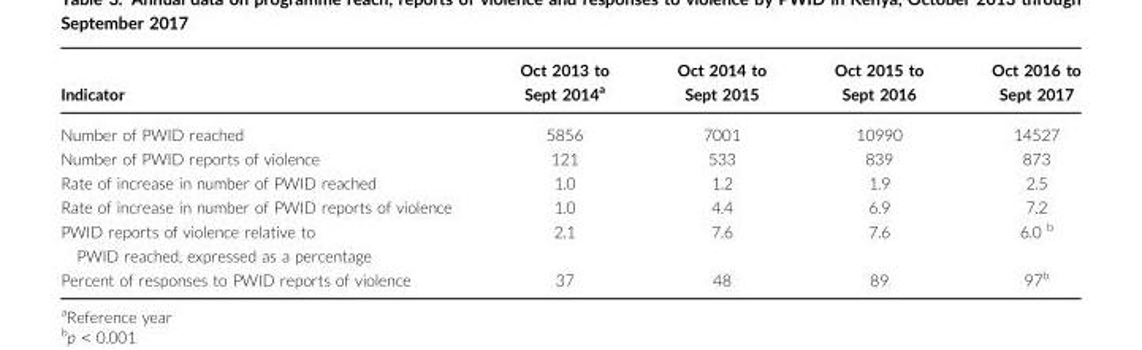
<table><thead><tr><td>Indicator</td><td>Oct 2013 to Sept 2014<sup>a</sup></td><td>Oct 2014 to Sept 2015</td><td>Oct 2015 to Sept 2016</td><td>Oct 2016 to Sept 2017</td></tr></thead><tbody><tr><td>Number of PWID reached</td><td>5856</td><td>7001</td><td>10990</td><td>14527</td></tr><tr><td>Number of PWID reports of violence</td><td>121</td><td>533</td><td>839</td><td>873</td></tr><tr><td>Rate of increase in number of PWID reached</td><td>1.0</td><td>1.2</td><td>1.9</td><td>2.5</td></tr><tr><td>Rate of increase in number of PWID reports of violence</td><td>1.0</td><td>4.4</td><td>6.9</td><td>7.2</td></tr><tr><td>PWID reports of violence relative to PWID reached, expressed as a percentage</td><td>2.1</td><td>7.6</td><td>7.6</td><td>6.0 b</td></tr><tr><td>Percent of responses to PWID reports of violence</td><td>37</td><td>48</td><td>89</td><td>97<sup>b</sup></td></tr></tbody></table>